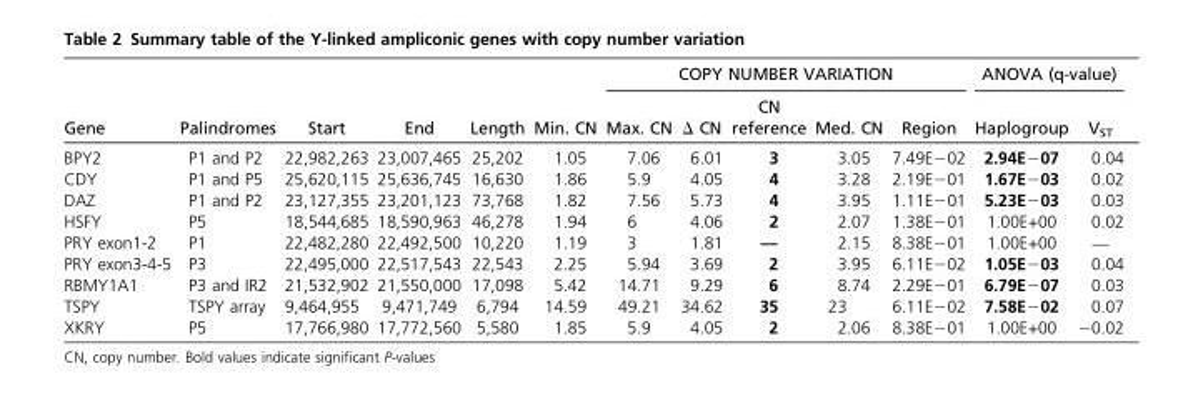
<table><thead><tr><td rowspan="2">Gene</td><td rowspan="2">Palindromes</td><td rowspan="2">Start</td><td rowspan="2">End</td><td rowspan="2">Length</td><td rowspan="2">Min. CN</td><td colspan="5">COPY NUMBER VARIATION</td><td colspan="2">ANOVA (q-value)</td></tr><tr><td>Max. CN</td><td>Δ CN</td><td>CN reference</td><td>Med. CN</td><td>Region</td><td>Haplogroup</td><td>V<sub>ST</sub></td></tr></thead><tbody><tr><td>BPY2</td><td>P1 and P2</td><td>22,982,263</td><td>23,007,465</td><td>25,202</td><td>1.05</td><td>7.06</td><td>6.01</td><td>3</td><td>3.05</td><td>7.49E−02</td><td>2.94E−07</td><td>0.04</td></tr><tr><td>CDY</td><td>P1 and P5</td><td>25,620,115</td><td>25,636,745</td><td>16,630</td><td>1.86</td><td>5.9</td><td>4.05</td><td>4</td><td>3.28</td><td>2.19E−01</td><td>1.67E−03</td><td>0.02</td></tr><tr><td>DAZ</td><td>P1 and P2</td><td>23,127,355</td><td>23,201,123</td><td>73,768</td><td>1.82</td><td>7.56</td><td>5.73</td><td>4</td><td>3.95</td><td>1.11E−01</td><td>5.23E−03</td><td>0.03</td></tr><tr><td>HSFY</td><td>P5</td><td>18,544,685</td><td>18,590,963</td><td>46,278</td><td>1.94</td><td>6</td><td>4.06</td><td>2</td><td>2.07</td><td>1.38E−01</td><td>1.00E+00</td><td>0.02</td></tr><tr><td>PRY exon1-2</td><td>P1</td><td>22,482,280</td><td>22,492,500</td><td>10,220</td><td>1.19</td><td>3</td><td>1.81</td><td>—</td><td>2.15</td><td>8.38E−01</td><td>1.00E+00</td><td>—</td></tr><tr><td>PRY exon3-4-5</td><td>P3</td><td>22,495,000</td><td>22,517,543</td><td>22,543</td><td>2.25</td><td>5.94</td><td>3.69</td><td>2</td><td>3.95</td><td>6.11E−02</td><td>1.05E−03</td><td>0.04</td></tr><tr><td>RBMY1A1</td><td>P3 and IR2</td><td>21,532,902</td><td>21,550,000</td><td>17,098</td><td>5.42</td><td>14.71</td><td>9.29</td><td>6</td><td>8.74</td><td>2.29E−01</td><td>6.79E−07</td><td>0.03</td></tr><tr><td>TSPY</td><td>TSPY array</td><td>9,464,955</td><td>9,471,749</td><td>6,794</td><td>14.59</td><td>49.21</td><td>34.62</td><td>35</td><td>23</td><td>6.11E−02</td><td>7.58E−02</td><td>0.07</td></tr><tr><td>XKRY</td><td>P5</td><td>17,766,980</td><td>17,772,560</td><td>5,580</td><td>1.85</td><td>5.9</td><td>4.05</td><td>2</td><td>2.06</td><td>8.38E−01</td><td>1.00E+00</td><td>−0.02</td></tr></tbody></table>